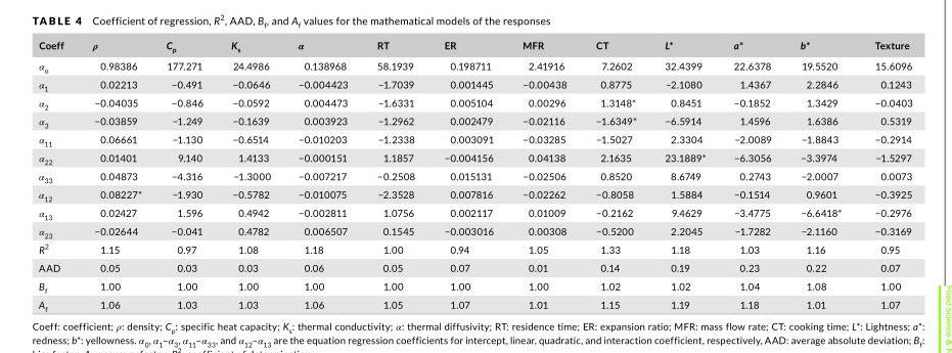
<table><thead><tr><td>Coeff</td><td>ρ</td><td>C<sub>p</sub></td><td>K<sub>s</sub></td><td>α</td><td>RT</td><td>ER</td><td>MFR</td><td>CT</td><td>L*</td><td>a*</td><td>b*</td><td>Texture</td></tr></thead><tbody><tr><td>α<sub>o</sub></td><td>0.98386</td><td>177.271</td><td>24.4986</td><td>0.138968</td><td>58.1939</td><td>0.198711</td><td>2.41916</td><td>7.2602</td><td>32.4399</td><td>22.6378</td><td>19.5520</td><td>15.6096</td></tr><tr><td>α<sub>1</sub></td><td>0.02213</td><td>−0.491</td><td>−0.0646</td><td>−0.004423</td><td>−1.7039</td><td>0.001445</td><td>−0.00438</td><td>0.8775</td><td>−2.1080</td><td>1.4367</td><td>2.2846</td><td>0.1243</td></tr><tr><td>α<sub>2</sub></td><td>−0.04035</td><td>−0.846</td><td>−0.0592</td><td>0.004473</td><td>−1.6331</td><td>0.005104</td><td>0.00296</td><td>1.3148*</td><td>0.8451</td><td>−0.1852</td><td>1.3429</td><td>−0.0403</td></tr><tr><td>α<sub>3</sub></td><td>−0.03859</td><td>−1.249</td><td>−0.1639</td><td>0.003923</td><td>−1.2962</td><td>0.002479</td><td>−0.02116</td><td>−1.6349*</td><td>−6.5914</td><td>1.4596</td><td>1.6386</td><td>0.5319</td></tr><tr><td>α<sub>11</sub></td><td>0.06661</td><td>−1.130</td><td>−0.6514</td><td>−0.010203</td><td>−1.2338</td><td>0.003091</td><td>−0.03285</td><td>−1.5027</td><td>2.3304</td><td>−2.0089</td><td>−1.8843</td><td>−0.2914</td></tr><tr><td>α<sub>22</sub></td><td>0.01401</td><td>9.140</td><td>1.4133</td><td>−0.000151</td><td>1.1857</td><td>−0.004156</td><td>0.04138</td><td>2.1635</td><td>23.1889*</td><td>−6.3056</td><td>−3.3974</td><td>−1.5297</td></tr><tr><td>α<sub>33</sub></td><td>0.04873</td><td>−4.316</td><td>−1.3000</td><td>−0.007217</td><td>−0.2508</td><td>0.015131</td><td>−0.02506</td><td>0.8520</td><td>8.6749</td><td>0.2743</td><td>−2.0007</td><td>0.0073</td></tr><tr><td>α<sub>12</sub></td><td>0.08227*</td><td>−1.930</td><td>−0.5782</td><td>−0.010075</td><td>−2.3528</td><td>0.007816</td><td>−0.02262</td><td>−0.8058</td><td>1.5884</td><td>−0.1514</td><td>0.9601</td><td>−0.3925</td></tr><tr><td>α<sub>13</sub></td><td>0.02427</td><td>1.596</td><td>0.4942</td><td>−0.002811</td><td>1.0756</td><td>0.002117</td><td>0.01009</td><td>−0.2162</td><td>9.4629</td><td>−3.4775</td><td>−6.6418*</td><td>−0.2976</td></tr><tr><td>α<sub>23</sub></td><td>−0.02644</td><td>−0.041</td><td>0.4782</td><td>0.006507</td><td>0.1545</td><td>−0.003016</td><td>0.00308</td><td>−0.5200</td><td>2.2045</td><td>−1.7282</td><td>−2.1160</td><td>−0.3169</td></tr><tr><td>R<sup>2</sup></td><td>1.15</td><td>0.97</td><td>1.08</td><td>1.18</td><td>1.00</td><td>0.94</td><td>1.05</td><td>1.33</td><td>1.18</td><td>1.03</td><td>1.16</td><td>0.95</td></tr><tr><td>AAD</td><td>0.05</td><td>0.03</td><td>0.03</td><td>0.06</td><td>0.05</td><td>0.07</td><td>0.01</td><td>0.14</td><td>0.19</td><td>0.23</td><td>0.22</td><td>0.07</td></tr><tr><td>B<sub>f</sub></td><td>1.00</td><td>1.00</td><td>1.00</td><td>1.00</td><td>1.00</td><td>1.00</td><td>1.00</td><td>1.02</td><td>1.02</td><td>1.04</td><td>1.08</td><td>1.00</td></tr><tr><td>A<sub>f</sub></td><td>1.06</td><td>1.03</td><td>1.03</td><td>1.06</td><td>1.05</td><td>1.07</td><td>1.01</td><td>1.15</td><td>1.19</td><td>1.18</td><td>1.01</td><td>1.07</td></tr></tbody></table>